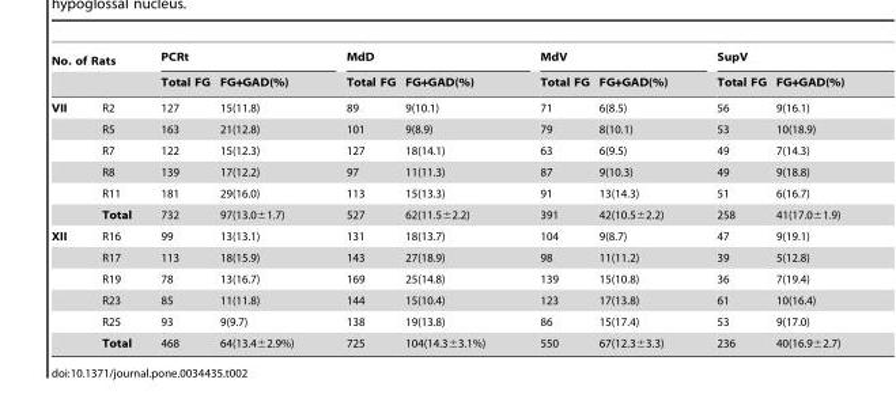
<table><thead><tr><td colspan="2">No. of Rats</td><td colspan="2">PCRt</td><td colspan="2">MdD</td><td colspan="2">MdV</td><td colspan="2">SupV</td></tr><tr><td></td><td></td><td>Total FG</td><td>FG+GAD(%)</td><td>Total FG</td><td>FG+GAD(%)</td><td>Total FG</td><td>FG+GAD(%)</td><td>Total FG</td><td>FG+GAD(%)</td></tr></thead><tbody><tr><td rowspan="6">VII</td><td>R2</td><td>127</td><td>15(11.8)</td><td>89</td><td>9(10.1)</td><td>71</td><td>6(8.5)</td><td>56</td><td>9(16.1)</td></tr><tr><td>R5</td><td>163</td><td>21(12.8)</td><td>101</td><td>9(8.9)</td><td>79</td><td>8(10.1)</td><td>53</td><td>10(18.9)</td></tr><tr><td>R7</td><td>122</td><td>15(12.3)</td><td>127</td><td>18(14.1)</td><td>63</td><td>6(9.5)</td><td>49</td><td>7(14.3)</td></tr><tr><td>R8</td><td>139</td><td>17(12.2)</td><td>97</td><td>11(11.3)</td><td>87</td><td>9(10.3)</td><td>49</td><td>9(18.8)</td></tr><tr><td>R11</td><td>181</td><td>29(16.0)</td><td>113</td><td>15(13.3)</td><td>91</td><td>13(14.3)</td><td>51</td><td>6(16.7)</td></tr><tr><td>Total</td><td>732</td><td>97(13.0±1.7)</td><td>527</td><td>62(11.5±2.2)</td><td>391</td><td>42(10.5±2.2)</td><td>258</td><td>41(17.0±1.9)</td></tr><tr><td rowspan="6">XII</td><td>R16</td><td>99</td><td>13(13.1)</td><td>131</td><td>18(13.7)</td><td>104</td><td>9(8.7)</td><td>47</td><td>9(19.1)</td></tr><tr><td>R17</td><td>113</td><td>18(15.9)</td><td>143</td><td>27(18.9)</td><td>98</td><td>11(11.2)</td><td>39</td><td>5(12.8)</td></tr><tr><td>R19</td><td>78</td><td>13(16.7)</td><td>169</td><td>25(14.8)</td><td>139</td><td>15(10.8)</td><td>36</td><td>7(19.4)</td></tr><tr><td>R23</td><td>85</td><td>11(11.8)</td><td>144</td><td>15(10.4)</td><td>123</td><td>17(13.8)</td><td>61</td><td>10(16.4)</td></tr><tr><td>R25</td><td>93</td><td>9(9.7)</td><td>138</td><td>19(13.8)</td><td>86</td><td>15(17.4)</td><td>53</td><td>9(17.0)</td></tr><tr><td>Total</td><td>468</td><td>64(13.4±2.9%)</td><td>725</td><td>104(14.3±3.1%)</td><td>550</td><td>67(12.3±3.3)</td><td>236</td><td>40(16.9±2.7)</td></tr></tbody></table>